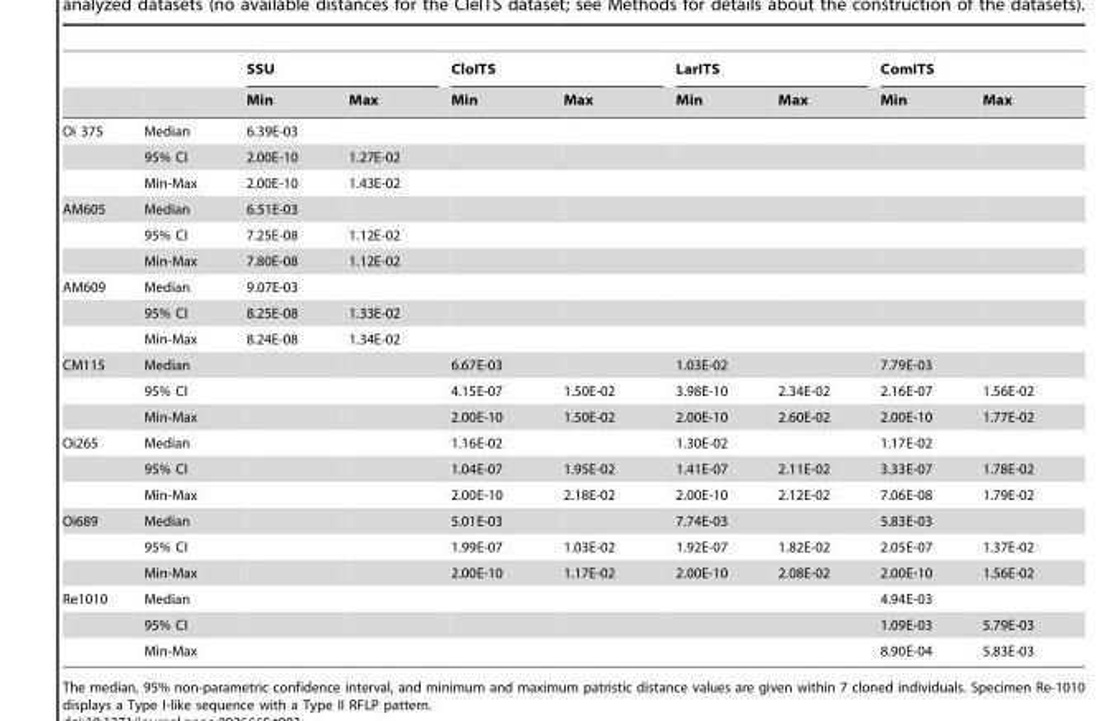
<table><thead><tr><td rowspan="2"></td><td rowspan="2"></td><td colspan="2">SSU</td><td colspan="2">CloITS</td><td colspan="2">LarITS</td><td colspan="2">ComITS</td></tr><tr><td>Min</td><td>Max</td><td>Min</td><td>Max</td><td>Min</td><td>Max</td><td>Min</td><td>Max</td></tr></thead><tbody><tr><td rowspan="3">Oi 375</td><td>Median</td><td>6.39E-03</td><td></td><td></td><td></td><td></td><td></td><td></td><td></td></tr><tr><td>95% CI</td><td>2.00E-10</td><td>1.27E-02</td><td></td><td></td><td></td><td></td><td></td><td></td></tr><tr><td>Min-Max</td><td>2.00E-10</td><td>1.43E-02</td><td></td><td></td><td></td><td></td><td></td><td></td></tr><tr><td rowspan="3">AM605</td><td>Median</td><td>6.51E-03</td><td></td><td></td><td></td><td></td><td></td><td></td><td></td></tr><tr><td>95% CI</td><td>7.25E-08</td><td>1.12E-02</td><td></td><td></td><td></td><td></td><td></td><td></td></tr><tr><td>Min-Max</td><td>7.80E-08</td><td>1.12E-02</td><td></td><td></td><td></td><td></td><td></td><td></td></tr><tr><td rowspan="3">AM609</td><td>Median</td><td>9.07E-03</td><td></td><td></td><td></td><td></td><td></td><td></td><td></td></tr><tr><td>95% CI</td><td>8.25E-08</td><td>1.33E-02</td><td></td><td></td><td></td><td></td><td></td><td></td></tr><tr><td>Min-Max</td><td>8.24E-08</td><td>1.34E-02</td><td></td><td></td><td></td><td></td><td></td><td></td></tr><tr><td rowspan="3">CM115</td><td>Median</td><td></td><td></td><td>6.67E-03</td><td></td><td>1.03E-02</td><td></td><td>7.79E-03</td><td></td></tr><tr><td>95% CI</td><td></td><td></td><td>4.15E-07</td><td>1.50E-02</td><td>3.98E-10</td><td>2.34E-02</td><td>2.16E-07</td><td>1.56E-02</td></tr><tr><td>Min-Max</td><td></td><td></td><td>2.00E-10</td><td>1.50E-02</td><td>2.00E-10</td><td>2.60E-02</td><td>2.00E-10</td><td>1.77E-02</td></tr><tr><td rowspan="3">Oi265</td><td>Median</td><td></td><td></td><td>1.16E-02</td><td></td><td>1.30E-02</td><td></td><td>1.17E-02</td><td></td></tr><tr><td>95% CI</td><td></td><td></td><td>1.04E-07</td><td>1.95E-02</td><td>1.41E-07</td><td>2.11E-02</td><td>3.33E-07</td><td>1.78E-02</td></tr><tr><td>Min-Max</td><td></td><td></td><td>2.00E-10</td><td>2.18E-02</td><td>2.00E-10</td><td>2.12E-02</td><td>7.06E-08</td><td>1.79E-02</td></tr><tr><td rowspan="3">Oi689</td><td>Median</td><td></td><td></td><td>5.01E-03</td><td></td><td>7.74E-03</td><td></td><td>5.83E-03</td><td></td></tr><tr><td>95% CI</td><td></td><td></td><td>1.99E-07</td><td>1.03E-02</td><td>1.92E-07</td><td>1.82E-02</td><td>2.05E-07</td><td>1.37E-02</td></tr><tr><td>Min-Max</td><td></td><td></td><td>2.00E-10</td><td>1.17E-02</td><td>2.00E-10</td><td>2.08E-02</td><td>2.00E-10</td><td>1.56E-02</td></tr><tr><td rowspan="3">Re1010</td><td>Median</td><td></td><td></td><td></td><td></td><td></td><td></td><td>4.94E-03</td><td></td></tr><tr><td>95% CI</td><td></td><td></td><td></td><td></td><td></td><td></td><td>1.09E-03</td><td>5.79E-03</td></tr><tr><td>Min-Max</td><td></td><td></td><td></td><td></td><td></td><td></td><td>8.90E-04</td><td>5.83E-03</td></tr></tbody></table>